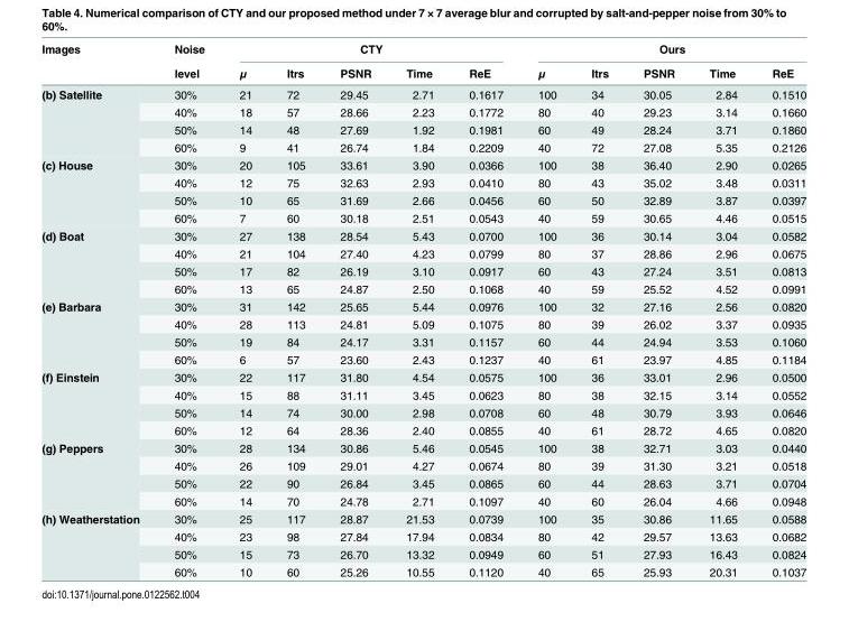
<table><thead><tr><td rowspan="2">Images</td><td rowspan="2">Noise level</td><td colspan="5">CTY</td><td colspan="5">Ours</td></tr><tr><td>μ</td><td>Itrs</td><td>PSNR</td><td>Time</td><td>ReE</td><td>μ</td><td>Itrs</td><td>PSNR</td><td>Time</td><td>ReE</td></tr></thead><tbody><tr><td rowspan="4">(b) Satellite</td><td>30%</td><td>21</td><td>72</td><td>29.45</td><td>2.71</td><td>0.1617</td><td>100</td><td>34</td><td>30.05</td><td>2.84</td><td>0.1510</td></tr><tr><td>40%</td><td>18</td><td>57</td><td>28.66</td><td>2.23</td><td>0.1772</td><td>80</td><td>40</td><td>29.23</td><td>3.14</td><td>0.1660</td></tr><tr><td>50%</td><td>14</td><td>48</td><td>27.69</td><td>1.92</td><td>0.1981</td><td>60</td><td>49</td><td>28.24</td><td>3.71</td><td>0.1860</td></tr><tr><td>60%</td><td>9</td><td>41</td><td>26.74</td><td>1.84</td><td>0.2209</td><td>40</td><td>72</td><td>27.08</td><td>5.35</td><td>0.2126</td></tr><tr><td rowspan="4">(c) House</td><td>30%</td><td>20</td><td>105</td><td>33.61</td><td>3.90</td><td>0.0366</td><td>100</td><td>38</td><td>36.40</td><td>2.90</td><td>0.0265</td></tr><tr><td>40%</td><td>12</td><td>75</td><td>32.63</td><td>2.93</td><td>0.0410</td><td>80</td><td>43</td><td>35.02</td><td>3.48</td><td>0.0311</td></tr><tr><td>50%</td><td>10</td><td>65</td><td>31.69</td><td>2.66</td><td>0.0456</td><td>60</td><td>50</td><td>32.89</td><td>3.87</td><td>0.0397</td></tr><tr><td>60%</td><td>7</td><td>60</td><td>30.18</td><td>2.51</td><td>0.0543</td><td>40</td><td>59</td><td>30.65</td><td>4.46</td><td>0.0515</td></tr><tr><td rowspan="4">(d) Boat</td><td>30%</td><td>27</td><td>138</td><td>28.54</td><td>5.43</td><td>0.0700</td><td>100</td><td>36</td><td>30.14</td><td>3.04</td><td>0.0582</td></tr><tr><td>40%</td><td>21</td><td>104</td><td>27.40</td><td>4.23</td><td>0.0799</td><td>80</td><td>37</td><td>28.86</td><td>2.96</td><td>0.0675</td></tr><tr><td>50%</td><td>17</td><td>82</td><td>26.19</td><td>3.10</td><td>0.0917</td><td>60</td><td>43</td><td>27.24</td><td>3.51</td><td>0.0813</td></tr><tr><td>60%</td><td>13</td><td>65</td><td>24.87</td><td>2.50</td><td>0.1068</td><td>40</td><td>59</td><td>25.52</td><td>4.52</td><td>0.0991</td></tr><tr><td rowspan="4">(e) Barbara</td><td>30%</td><td>31</td><td>142</td><td>25.65</td><td>5.44</td><td>0.0976</td><td>100</td><td>32</td><td>27.16</td><td>2.56</td><td>0.0820</td></tr><tr><td>40%</td><td>28</td><td>113</td><td>24.81</td><td>5.09</td><td>0.1075</td><td>80</td><td>39</td><td>26.02</td><td>3.37</td><td>0.0935</td></tr><tr><td>50%</td><td>19</td><td>84</td><td>24.17</td><td>3.31</td><td>0.1157</td><td>60</td><td>44</td><td>24.94</td><td>3.53</td><td>0.1060</td></tr><tr><td>60%</td><td>6</td><td>57</td><td>23.60</td><td>2.43</td><td>0.1237</td><td>40</td><td>61</td><td>23.97</td><td>4.85</td><td>0.1184</td></tr><tr><td rowspan="4">(f) Einstein</td><td>30%</td><td>22</td><td>117</td><td>31.80</td><td>4.54</td><td>0.0575</td><td>100</td><td>36</td><td>33.01</td><td>2.96</td><td>0.0500</td></tr><tr><td>40%</td><td>15</td><td>88</td><td>31.11</td><td>3.45</td><td>0.0623</td><td>80</td><td>38</td><td>32.15</td><td>3.14</td><td>0.0552</td></tr><tr><td>50%</td><td>14</td><td>74</td><td>30.00</td><td>2.98</td><td>0.0708</td><td>60</td><td>48</td><td>30.79</td><td>3.93</td><td>0.0646</td></tr><tr><td>60%</td><td>12</td><td>64</td><td>28.36</td><td>2.40</td><td>0.0855</td><td>40</td><td>61</td><td>28.72</td><td>4.65</td><td>0.0820</td></tr><tr><td rowspan="4">(g) Peppers</td><td>30%</td><td>28</td><td>134</td><td>30.86</td><td>5.46</td><td>0.0545</td><td>100</td><td>38</td><td>32.71</td><td>3.03</td><td>0.0440</td></tr><tr><td>40%</td><td>26</td><td>109</td><td>29.01</td><td>4.27</td><td>0.0674</td><td>80</td><td>39</td><td>31.30</td><td>3.21</td><td>0.0518</td></tr><tr><td>50%</td><td>22</td><td>90</td><td>26.84</td><td>3.45</td><td>0.0865</td><td>60</td><td>44</td><td>28.63</td><td>3.71</td><td>0.0704</td></tr><tr><td>60%</td><td>14</td><td>70</td><td>24.78</td><td>2.71</td><td>0.1097</td><td>40</td><td>60</td><td>26.04</td><td>4.66</td><td>0.0948</td></tr><tr><td rowspan="4">(h) Weatherstation</td><td>30%</td><td>25</td><td>117</td><td>28.87</td><td>21.53</td><td>0.0739</td><td>100</td><td>35</td><td>30.86</td><td>11.65</td><td>0.0588</td></tr><tr><td>40%</td><td>23</td><td>98</td><td>27.84</td><td>17.94</td><td>0.0834</td><td>80</td><td>42</td><td>29.57</td><td>13.63</td><td>0.0682</td></tr><tr><td>50%</td><td>15</td><td>73</td><td>26.70</td><td>13.32</td><td>0.0949</td><td>60</td><td>51</td><td>27.93</td><td>16.43</td><td>0.0824</td></tr><tr><td>60%</td><td>10</td><td>60</td><td>25.26</td><td>10.55</td><td>0.1120</td><td>40</td><td>65</td><td>25.93</td><td>20.31</td><td>0.1037</td></tr></tbody></table>